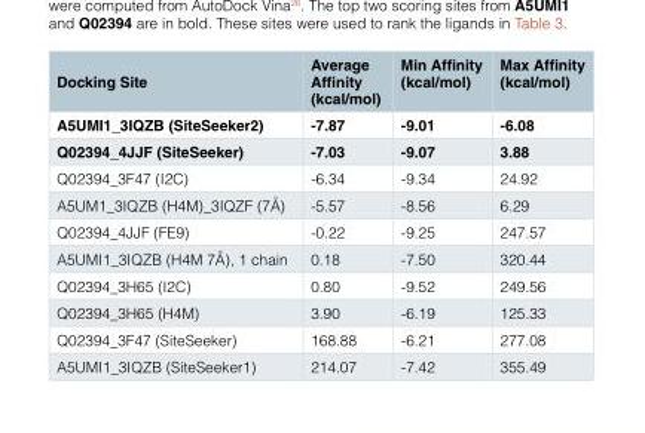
<table><thead><tr><td>Docking Site</td><td>Average Affinity (kcal/mol)</td><td>Min Affinity (kcal/mol)</td><td>Max Affinity (kcal/mol)</td></tr></thead><tbody><tr><td>A5UMI1_3IQZB (SiteSeeker2)</td><td>-7.87</td><td>-9.01</td><td>-6.08</td></tr><tr><td>Q02394_4JJF (SiteSeeker)</td><td>-7.03</td><td>-9.07</td><td>3.88</td></tr><tr><td>Q02394_3F47 (I2C)</td><td>-6.34</td><td>-9.34</td><td>24.92</td></tr><tr><td>A5UM1_3IQZB (H4M)_3IQZF (7Å)</td><td>-5.57</td><td>-8.56</td><td>6.29</td></tr><tr><td>Q02394_4JJF (FE9)</td><td>-0.22</td><td>-9.25</td><td>247.57</td></tr><tr><td>A5UMI1_3IQZB (H4M 7Å), 1 chain</td><td>0.18</td><td>-7.50</td><td>320.44</td></tr><tr><td>Q02394_3H65 (I2C)</td><td>0.80</td><td>-9.52</td><td>249.56</td></tr><tr><td>Q02394_3H65 (H4M)</td><td>3.90</td><td>-6.19</td><td>125.33</td></tr><tr><td>Q02394_3F47 (SiteSeeker)</td><td>168.88</td><td>-6.21</td><td>277.08</td></tr><tr><td>A5UMI1_3IQZB (SiteSeeker1)</td><td>214.07</td><td>-7.42</td><td>355.49</td></tr></tbody></table>